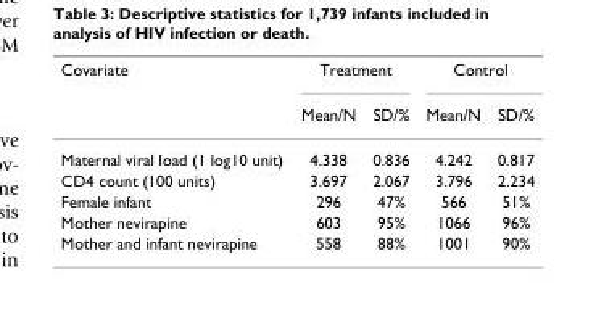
<table><thead><tr><td rowspan="2">Covariate</td><td colspan="2">Treatment</td><td colspan="2">Control</td></tr><tr><td>Mean/N</td><td>SD/%</td><td>Mean/N</td><td>SD/%</td></tr></thead><tbody><tr><td>Maternal viral load (1 log10 unit)</td><td>4.338</td><td>0.836</td><td>4.242</td><td>0.817</td></tr><tr><td>CD4 count (100 units)</td><td>3.697</td><td>2.067</td><td>3.796</td><td>2.234</td></tr><tr><td>Female infant</td><td>296</td><td>47%</td><td>566</td><td>51%</td></tr><tr><td>Mother nevirapine</td><td>603</td><td>95%</td><td>1066</td><td>96%</td></tr><tr><td>Mother and infant nevirapine</td><td>558</td><td>88%</td><td>1001</td><td>90%</td></tr></tbody></table>